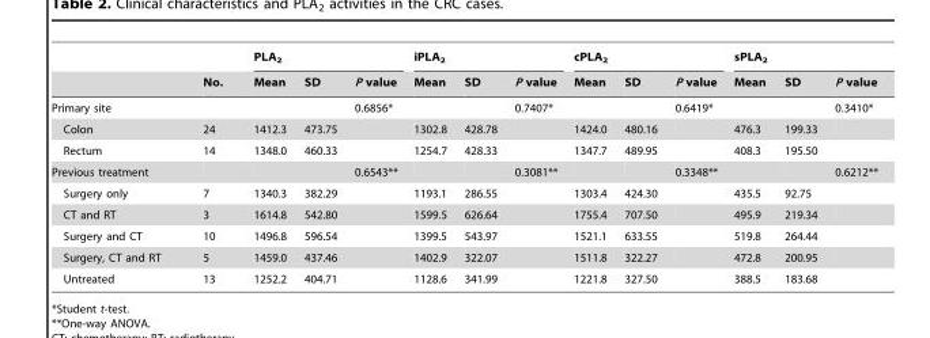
<table><thead><tr><td rowspan="2"></td><td rowspan="2">No.</td><td colspan="3">PLA<sub>2</sub></td><td colspan="3">iPLA<sub>2</sub></td><td colspan="3">cPLA<sub>2</sub></td><td colspan="3">sPLA<sub>2</sub></td></tr><tr><td>Mean</td><td>SD</td><td>P value</td><td>Mean</td><td>SD</td><td>P value</td><td>Mean</td><td>SD</td><td>P value</td><td>Mean</td><td>SD</td><td>P value</td></tr></thead><tbody><tr><td>Primary site</td><td></td><td></td><td></td><td>0.6856*</td><td></td><td></td><td>0.7407*</td><td></td><td></td><td>0.6419*</td><td></td><td></td><td>0.3410*</td></tr><tr><td>Colon</td><td>24</td><td>1412.3</td><td>473.75</td><td></td><td>1302.8</td><td>428.78</td><td></td><td>1424.0</td><td>480.16</td><td></td><td>476.3</td><td>199.33</td><td></td></tr><tr><td>Rectum</td><td>14</td><td>1348.0</td><td>460.33</td><td></td><td>1254.7</td><td>428.33</td><td></td><td>1347.7</td><td>489.95</td><td></td><td>408.3</td><td>195.50</td><td></td></tr><tr><td>Previous treatment</td><td></td><td></td><td></td><td>0.6543**</td><td></td><td></td><td>0.3081**</td><td></td><td></td><td>0.3348**</td><td></td><td></td><td>0.6212**</td></tr><tr><td>Surgery only</td><td>7</td><td>1340.3</td><td>382.29</td><td></td><td>1193.1</td><td>286.55</td><td></td><td>1303.4</td><td>424.30</td><td></td><td>435.5</td><td>92.75</td><td></td></tr><tr><td>CT and RT</td><td>3</td><td>1614.8</td><td>542.80</td><td></td><td>1599.5</td><td>626.64</td><td></td><td>1755.4</td><td>707.50</td><td></td><td>495.9</td><td>219.34</td><td></td></tr><tr><td>Surgery and CT</td><td>10</td><td>1496.8</td><td>596.54</td><td></td><td>1399.5</td><td>543.97</td><td></td><td>1521.1</td><td>633.55</td><td></td><td>519.8</td><td>264.44</td><td></td></tr><tr><td>Surgery, CT and RT</td><td>5</td><td>1459.0</td><td>437.46</td><td></td><td>1402.9</td><td>322.07</td><td></td><td>1511.8</td><td>322.27</td><td></td><td>472.8</td><td>200.95</td><td></td></tr><tr><td>Untreated</td><td>13</td><td>1252.2</td><td>404.71</td><td></td><td>1128.6</td><td>341.99</td><td></td><td>1221.8</td><td>327.50</td><td></td><td>388.5</td><td>183.68</td><td></td></tr></tbody></table>